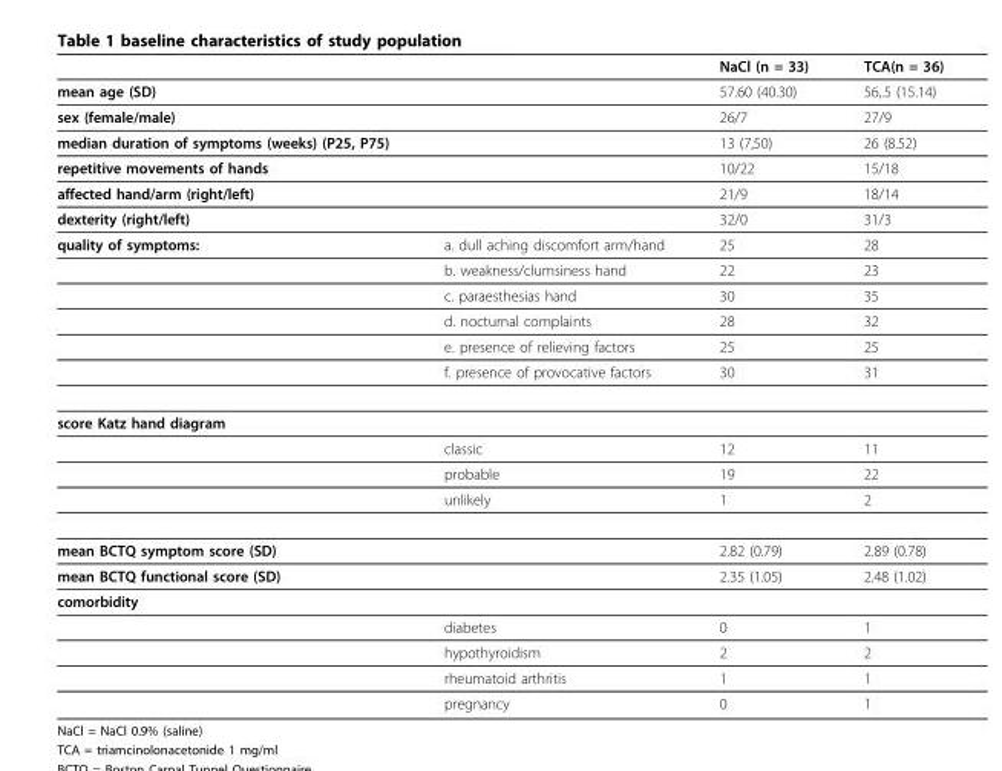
<table><thead><tr><td></td><td></td><td>NaCl (n = 33)</td><td>TCA(n = 36)</td></tr></thead><tbody><tr><td>mean age (SD)</td><td></td><td>57.60 (40.30)</td><td>56,.5 (15.14)</td></tr><tr><td>sex (female/male)</td><td></td><td>26/7</td><td>27/9</td></tr><tr><td>median duration of symptoms (weeks) (P25, P75)</td><td></td><td>13 (7,50)</td><td>26 (8.52)</td></tr><tr><td>repetitive movements of hands</td><td></td><td>10/22</td><td>15/18</td></tr><tr><td>affected hand/arm (right/left)</td><td></td><td>21/9</td><td>18/14</td></tr><tr><td>dexterity (right/left)</td><td></td><td>32/0</td><td>31/3</td></tr><tr><td rowspan="6">quality of symptoms:</td><td>a. dull aching discomfort arm/hand</td><td>25</td><td>28</td></tr><tr><td>b. weakness/clumsiness hand</td><td>22</td><td>23</td></tr><tr><td>c. paraesthesias hand</td><td>30</td><td>35</td></tr><tr><td>d. nocturnal complaints</td><td>28</td><td>32</td></tr><tr><td>e. presence of relieving factors</td><td>25</td><td>25</td></tr><tr><td>f. presence of provocative factors</td><td>30</td><td>31</td></tr><tr><td colspan="4">score Katz hand diagram</td></tr><tr><td></td><td>classic</td><td>12</td><td>11</td></tr><tr><td></td><td>probable</td><td>19</td><td>22</td></tr><tr><td></td><td>unlikely</td><td>1</td><td>2</td></tr><tr><td>mean BCTQ symptom score (SD)</td><td></td><td>2.82 (0.79)</td><td>2.89 (0.78)</td></tr><tr><td>mean BCTQ functional score (SD)</td><td></td><td>2.35 (1.05)</td><td>2.48 (1.02)</td></tr><tr><td colspan="4">comorbidity</td></tr><tr><td></td><td>diabetes</td><td>0</td><td>1</td></tr><tr><td></td><td>hypothyroidism</td><td>2</td><td>2</td></tr><tr><td></td><td>rheumatoid arthritis</td><td>1</td><td>1</td></tr><tr><td></td><td>pregnancy</td><td>0</td><td>1</td></tr></tbody></table>